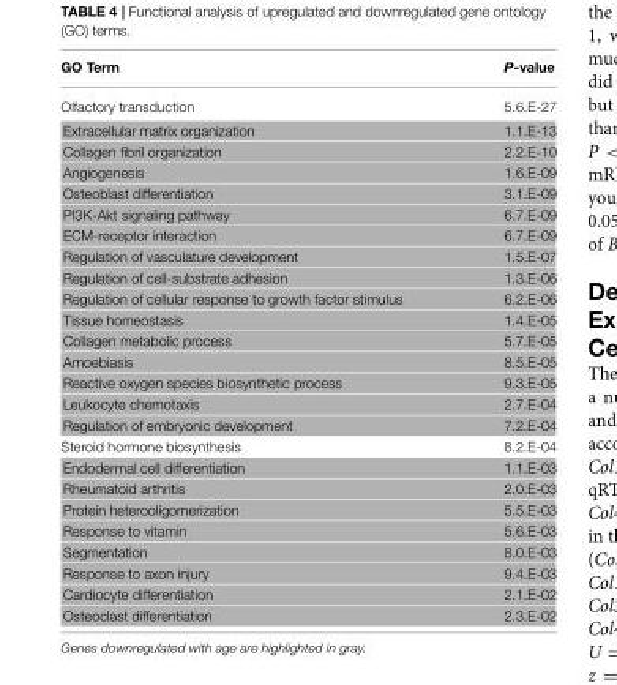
<table><thead><tr><td>GO Term</td><td>P-value</td></tr></thead><tbody><tr><td>Olfactory transduction</td><td>5.6.E-27</td></tr><tr><td>Extracellular matrix organization</td><td>1.1.E-13</td></tr><tr><td>Collagen fibril organization</td><td>2.2.E-10</td></tr><tr><td>Angiogenesis</td><td>1.6.E-09</td></tr><tr><td>Osteoblast differentiation</td><td>3.1.E-09</td></tr><tr><td>PI3K-Akt signaling pathway</td><td>6.7.E-09</td></tr><tr><td>ECM-receptor interaction</td><td>6.7.E-09</td></tr><tr><td>Regulation of vasculature development</td><td>1.5.E-07</td></tr><tr><td>Regulation of cell-substrate adhesion</td><td>1.3.E-06</td></tr><tr><td>Regulation of cellular response to growth factor stimulus</td><td>6.2.E-06</td></tr><tr><td>Tissue homeostasis</td><td>1.4.E-05</td></tr><tr><td>Collagen metabolic process</td><td>5.7.E-05</td></tr><tr><td>Amoebiasis</td><td>8.5.E-05</td></tr><tr><td>Reactive oxygen species biosynthetic process</td><td>9.3.E-05</td></tr><tr><td>Leukocyte chemotaxis</td><td>2.7.E-04</td></tr><tr><td>Regulation of embryonic development</td><td>7.2.E-04</td></tr><tr><td>Steroid hormone biosynthesis</td><td>8.2.E-04</td></tr><tr><td>Endodermal cell differentiation</td><td>1.1.E-03</td></tr><tr><td>Rheumatoid arthritis</td><td>2.0.E-03</td></tr><tr><td>Protein heterooligomerization</td><td>5.5.E-03</td></tr><tr><td>Response to vitamin</td><td>5.6.E-03</td></tr><tr><td>Segmentation</td><td>8.0.E-03</td></tr><tr><td>Response to axon injury</td><td>9.4.E-03</td></tr><tr><td>Cardiocyte differentiation</td><td>2.1.E-02</td></tr><tr><td>Osteoclast differentiation</td><td>2.3.E-02</td></tr></tbody></table>